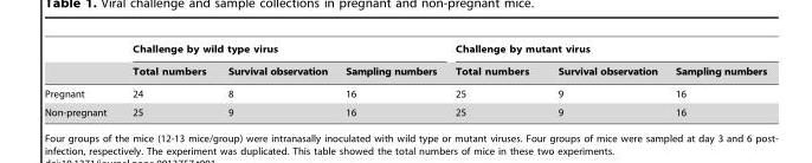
<table><thead><tr><td rowspan="2"></td><td colspan="3">Challenge by wild type virus</td><td colspan="3">Challenge by mutant virus</td></tr><tr><td>Total numbers</td><td>Survival observation</td><td>Sampling numbers</td><td>Total numbers</td><td>Survival observation</td><td>Sampling numbers</td></tr></thead><tbody><tr><td>Pregnant</td><td>24</td><td>8</td><td>16</td><td>25</td><td>9</td><td>16</td></tr><tr><td>Non-pregnant</td><td>25</td><td>9</td><td>16</td><td>25</td><td>9</td><td>16</td></tr></tbody></table>